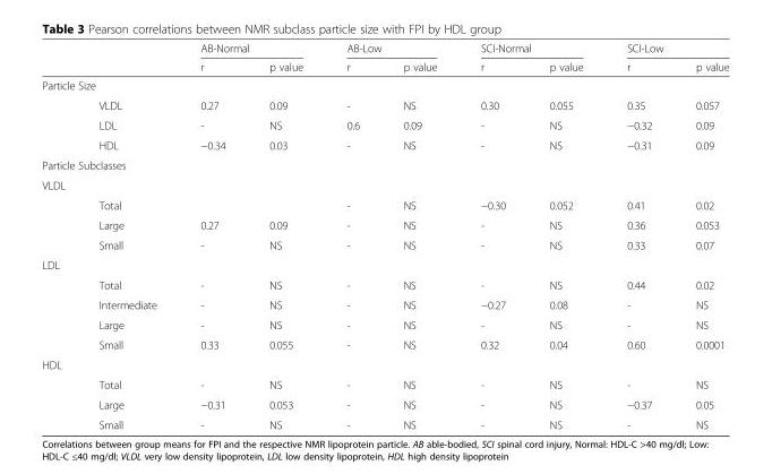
<table><thead><tr><td rowspan="2"></td><td colspan="2">AB-Normal</td><td colspan="2">AB-Low</td><td colspan="2">SCI-Normal</td><td colspan="2">SCI-Low</td></tr><tr><td>r</td><td>p value</td><td>r</td><td>p value</td><td>r</td><td>p value</td><td>r</td><td>p value</td></tr></thead><tbody><tr><td colspan="9">Particle Size</td></tr><tr><td>VLDL</td><td>0.27</td><td>0.09</td><td>-</td><td>NS</td><td>0.30</td><td>0.055</td><td>0.35</td><td>0.057</td></tr><tr><td>LDL</td><td>-</td><td>NS</td><td>0.6</td><td>0.09</td><td>-</td><td>NS</td><td>−0.32</td><td>0.09</td></tr><tr><td>HDL</td><td>−0.34</td><td>0.03</td><td>-</td><td>NS</td><td>-</td><td>NS</td><td>−0.31</td><td>0.09</td></tr><tr><td colspan="9">Particle Subclasses</td></tr><tr><td colspan="9">VLDL</td></tr><tr><td>Total</td><td></td><td></td><td>-</td><td>NS</td><td>−0.30</td><td>0.052</td><td>0.41</td><td>0.02</td></tr><tr><td>Large</td><td>0.27</td><td>0.09</td><td>-</td><td>NS</td><td>-</td><td>NS</td><td>0.36</td><td>0.053</td></tr><tr><td>Small</td><td>-</td><td>NS</td><td>-</td><td>NS</td><td>-</td><td>NS</td><td>0.33</td><td>0.07</td></tr><tr><td colspan="9">LDL</td></tr><tr><td>Total</td><td>-</td><td>NS</td><td>-</td><td>NS</td><td>-</td><td>NS</td><td>0.44</td><td>0.02</td></tr><tr><td>Intermediate</td><td>-</td><td>NS</td><td>-</td><td>NS</td><td>−0.27</td><td>0.08</td><td>-</td><td>NS</td></tr><tr><td>Large</td><td>-</td><td>NS</td><td>-</td><td>NS</td><td>-</td><td>NS</td><td>-</td><td>NS</td></tr><tr><td>Small</td><td>0.33</td><td>0.055</td><td>-</td><td>NS</td><td>0.32</td><td>0.04</td><td>0.60</td><td>0.0001</td></tr><tr><td colspan="9">HDL</td></tr><tr><td>Total</td><td>-</td><td>NS</td><td>-</td><td>NS</td><td>-</td><td>NS</td><td>-</td><td>NS</td></tr><tr><td>Large</td><td>−0.31</td><td>0.053</td><td>-</td><td>NS</td><td>-</td><td>NS</td><td>−0.37</td><td>0.05</td></tr><tr><td>Small</td><td>-</td><td>NS</td><td>-</td><td>NS</td><td>-</td><td>NS</td><td>-</td><td>NS</td></tr></tbody></table>